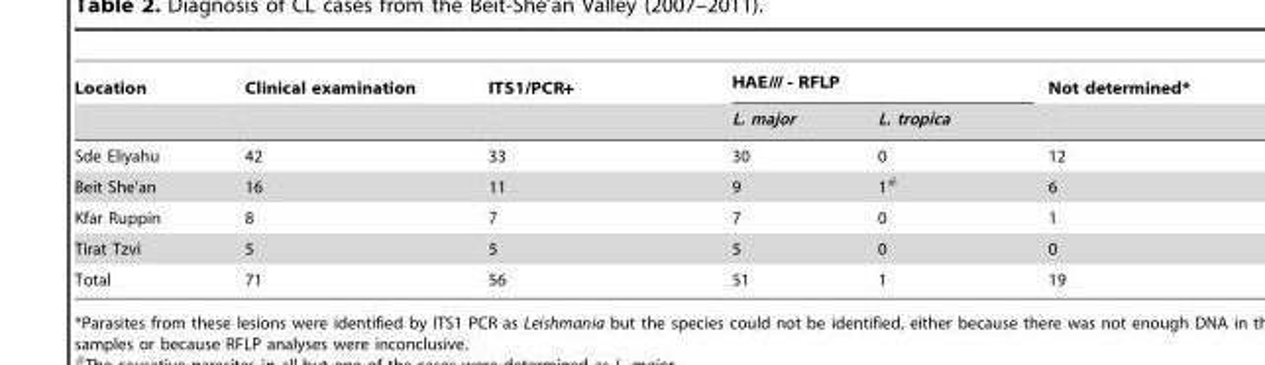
<table><thead><tr><td rowspan="2">Location</td><td rowspan="2">Clinical examination</td><td rowspan="2">ITS1/PCR+</td><td colspan="2">HAEIII - RFLP</td><td rowspan="2">Not determined*</td></tr><tr><td>L. major</td><td>L. tropica</td></tr></thead><tbody><tr><td>Sde Eliyahu</td><td>42</td><td>33</td><td>30</td><td>0</td><td>12</td></tr><tr><td>Beit She’an</td><td>16</td><td>11</td><td>9</td><td>1#</td><td>6</td></tr><tr><td>Kfar Ruppin</td><td>8</td><td>7</td><td>7</td><td>0</td><td>1</td></tr><tr><td>Tirat Tzvi</td><td>5</td><td>5</td><td>5</td><td>0</td><td>0</td></tr><tr><td>Total</td><td>71</td><td>56</td><td>51</td><td>1</td><td>19</td></tr></tbody></table>